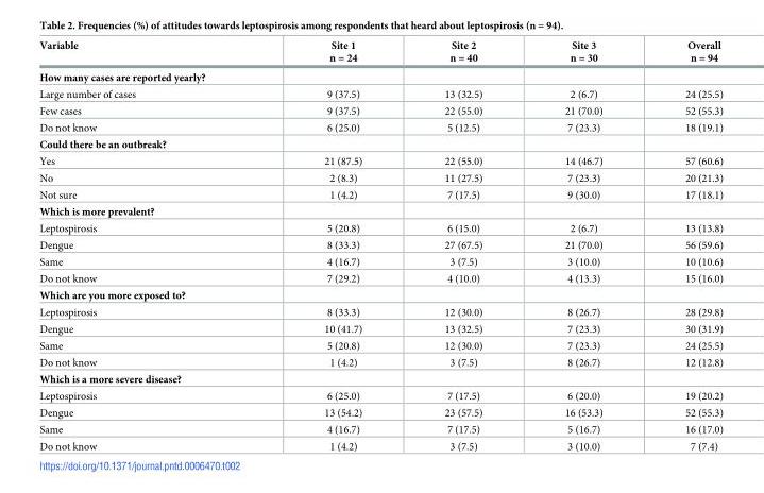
<table><thead><tr><td>Variable</td><td>Site 1 n = 24</td><td>Site 2 n = 40</td><td>Site 3 n = 30</td><td>Overall n = 94</td></tr></thead><tbody><tr><td colspan="5">How many cases are reported yearly?</td></tr><tr><td>Large number of cases</td><td>9 (37.5)</td><td>13 (32.5)</td><td>2 (6.7)</td><td>24 (25.5)</td></tr><tr><td>Few cases</td><td>9 (37.5)</td><td>22 (55.0)</td><td>21 (70.0)</td><td>52 (55.3)</td></tr><tr><td>Do not know</td><td>6 (25.0)</td><td>5 (12.5)</td><td>7 (23.3)</td><td>18 (19.1)</td></tr><tr><td colspan="5">Could there be an outbreak?</td></tr><tr><td>Yes</td><td>21 (87.5)</td><td>22 (55.0)</td><td>14 (46.7)</td><td>57 (60.6)</td></tr><tr><td>No</td><td>2 (8.3)</td><td>11 (27.5)</td><td>7 (23.3)</td><td>20 (21.3)</td></tr><tr><td>Not sure</td><td>1 (4.2)</td><td>7 (17.5)</td><td>9 (30.0)</td><td>17 (18.1)</td></tr><tr><td colspan="5">Which is more prevalent?</td></tr><tr><td>Leptospirosis</td><td>5 (20.8)</td><td>6 (15.0)</td><td>2 (6.7)</td><td>13 (13.8)</td></tr><tr><td>Dengue</td><td>8 (33.3)</td><td>27 (67.5)</td><td>21 (70.0)</td><td>56 (59.6)</td></tr><tr><td>Same</td><td>4 (16.7)</td><td>3 (7.5)</td><td>3 (10.0)</td><td>10 (10.6)</td></tr><tr><td>Do not know</td><td>7 (29.2)</td><td>4 (10.0)</td><td>4 (13.3)</td><td>15 (16.0)</td></tr><tr><td colspan="5">Which are you more exposed to?</td></tr><tr><td>Leptospirosis</td><td>8 (33.3)</td><td>12 (30.0)</td><td>8 (26.7)</td><td>28 (29.8)</td></tr><tr><td>Dengue</td><td>10 (41.7)</td><td>13 (32.5)</td><td>7 (23.3)</td><td>30 (31.9)</td></tr><tr><td>Same</td><td>5 (20.8)</td><td>12 (30.0)</td><td>7 (23.3)</td><td>24 (25.5)</td></tr><tr><td>Do not know</td><td>1 (4.2)</td><td>3 (7.5)</td><td>8 (26.7)</td><td>12 (12.8)</td></tr><tr><td colspan="5">Which is a more severe disease?</td></tr><tr><td>Leptospirosis</td><td>6 (25.0)</td><td>7 (17.5)</td><td>6 (20.0)</td><td>19 (20.2)</td></tr><tr><td>Dengue</td><td>13 (54.2)</td><td>23 (57.5)</td><td>16 (53.3)</td><td>52 (55.3)</td></tr><tr><td>Same</td><td>4 (16.7)</td><td>7 (17.5)</td><td>5 (16.7)</td><td>16 (17.0)</td></tr><tr><td>Do not know</td><td>1 (4.2)</td><td>3 (7.5)</td><td>3 (10.0)</td><td>7 (7.4)</td></tr></tbody></table>